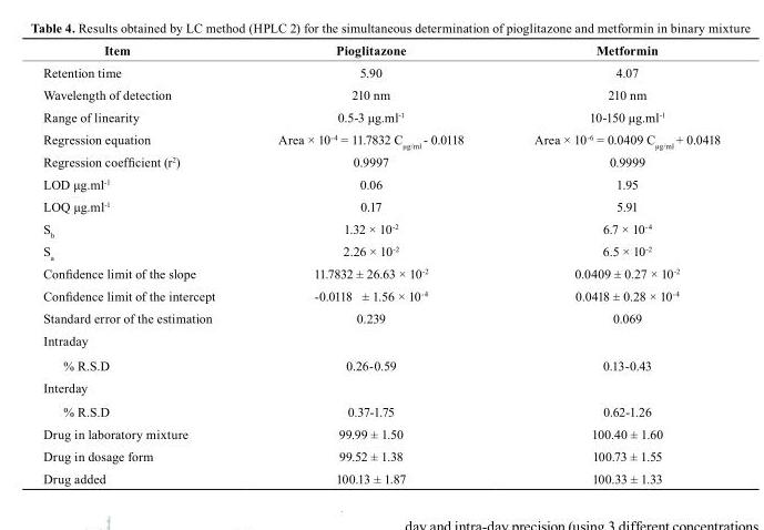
<table><thead><tr><td>Item</td><td>Pioglitazone</td><td>Metformin</td></tr></thead><tbody><tr><td>Retention time</td><td>5.90</td><td>4.07</td></tr><tr><td>Wavelength of detection</td><td>210 nm</td><td>210 nm</td></tr><tr><td>Range of linearity</td><td>0.5-3 μg.ml<sup>-1</sup></td><td>10-150 μg.ml<sup>-1</sup></td></tr><tr><td>Regression equation</td><td>Area × 10<sup>-4</sup> = 11.7832 C<sub>μg/ml</sub> - 0.0118</td><td>Area × 10<sup>-6</sup> = 0.0409 C<sub>μg/ml</sub> + 0.0418</td></tr><tr><td>Regression coefficient (r<sup>2</sup>)</td><td>0.9997</td><td>0.9999</td></tr><tr><td>LOD μg.ml<sup>-1</sup></td><td>0.06</td><td>1.95</td></tr><tr><td>LOQ μg.ml<sup>-1</sup></td><td>0.17</td><td>5.91</td></tr><tr><td>S<sub>b</sub></td><td>1.32 × 10<sup>-2</sup></td><td>6.7 × 10<sup>-4</sup></td></tr><tr><td>S<sub>a</sub></td><td>2.26 × 10<sup>-2</sup></td><td>6.5 × 10<sup>-2</sup></td></tr><tr><td>Confidence limit of the slope</td><td>11.7832 ± 26.63 × 10<sup>-2</sup></td><td>0.0409 ± 0.27 × 10<sup>-2</sup></td></tr><tr><td>Confidence limit of the intercept</td><td>-0.0118 ± 1.56 × 10<sup>-4</sup></td><td>0.0418 ± 0.28 × 10<sup>-4</sup></td></tr><tr><td>Standard error of the estimation</td><td>0.239</td><td>0.069</td></tr><tr><td colspan="3">Intraday</td></tr><tr><td>% R.S.D</td><td>0.26-0.59</td><td>0.13-0.43</td></tr><tr><td colspan="3">Interday</td></tr><tr><td>% R.S.D</td><td>0.37-1.75</td><td>0.62-1.26</td></tr><tr><td>Drug in laboratory mixture</td><td>99.99 ± 1.50</td><td>100.40 ± 1.60</td></tr><tr><td>Drug in dosage form</td><td>99.52 ± 1.38</td><td>100.73 ± 1.55</td></tr><tr><td>Drug added</td><td>100.13 ± 1.87</td><td>100.33 ± 1.33</td></tr></tbody></table>